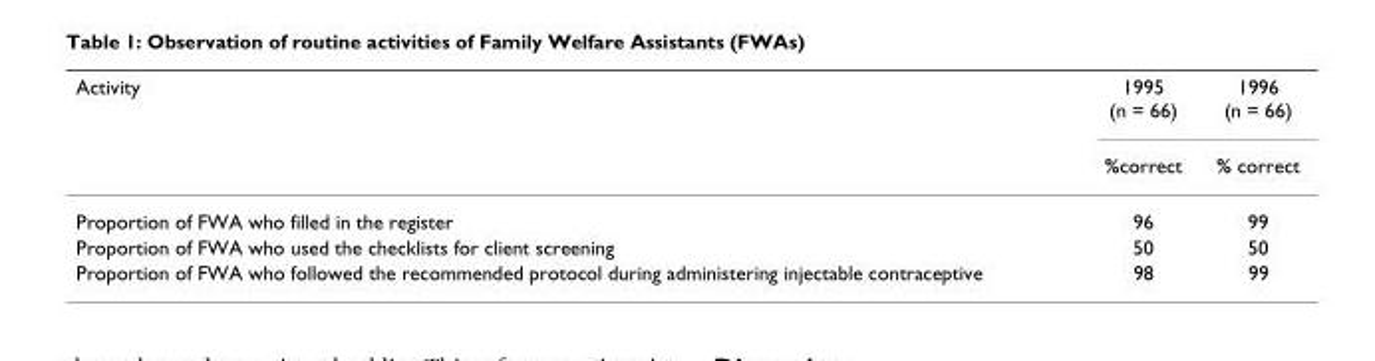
<table><thead><tr><td rowspan="2">Activity</td><td rowspan="2">1995 (n = 66) %correct</td><td rowspan="2">1996 (n = 66) % correct</td></tr><tr></tr></thead><tbody><tr><td>Proportion of FWA who filled in the register</td><td>96</td><td>99</td></tr><tr><td>Proportion of FWA who used the checklists for client screening</td><td>50</td><td>50</td></tr><tr><td>Proportion of FWA who followed the recommended protocol during administering injectable contraceptive</td><td>98</td><td>99</td></tr></tbody></table>